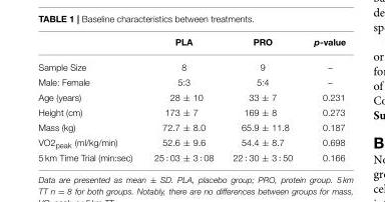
<table><thead><tr><td></td><td>PLA</td><td>PRO</td><td>p-value</td></tr></thead><tbody><tr><td>Sample Size</td><td>8</td><td>9</td><td>–</td></tr><tr><td>Male: Female</td><td>5:3</td><td>5:4</td><td>–</td></tr><tr><td>Age (years)</td><td>28 ± 10</td><td>33 ± 7</td><td>0.231</td></tr><tr><td>Height (cm)</td><td>173 ± 7</td><td>169 ± 8</td><td>0.273</td></tr><tr><td>Mass (kg)</td><td>72.7 ± 8.0</td><td>65.9 ± 11.8</td><td>0.187</td></tr><tr><td>VO2<sub>peak</sub> (ml/kg/min)</td><td>52.6 ± 9.6</td><td>54.4 ± 8.7</td><td>0.698</td></tr><tr><td>5 km Time Trial (min:sec)</td><td>25 : 03 ± 3 : 08</td><td>22 : 30 ± 3 : 50</td><td>0.166</td></tr></tbody></table>